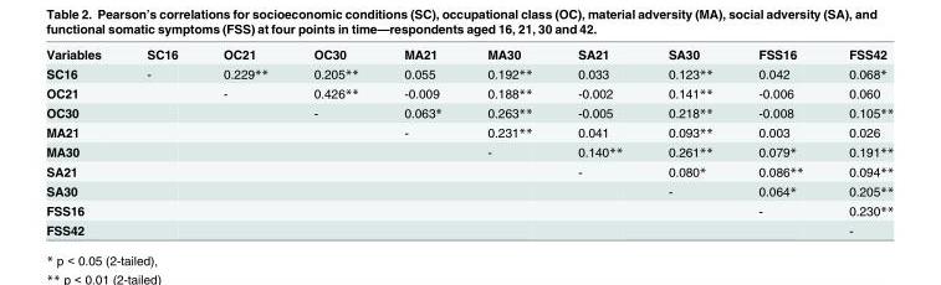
<table><tbody><tr><td>Variables</td><td>SC16</td><td>OC21</td><td>OC30</td><td>MA21</td><td>MA30</td><td>SA21</td><td>SA30</td><td>FSS16</td><td>FSS42</td></tr><tr><td>SC16</td><td>-</td><td>0.229**</td><td>0.205**</td><td>0.055</td><td>0.192**</td><td>0.033</td><td>0.123**</td><td>0.042</td><td>0.068*</td></tr><tr><td>OC21</td><td></td><td>-</td><td>0.426**</td><td>-0.009</td><td>0.188**</td><td>-0.002</td><td>0.141**</td><td>-0.006</td><td>0.060</td></tr><tr><td>OC30</td><td></td><td></td><td>-</td><td>0.063*</td><td>0.263**</td><td>-0.005</td><td>0.218**</td><td>-0.008</td><td>0.105**</td></tr><tr><td>MA21</td><td></td><td></td><td></td><td>-</td><td>0.231**</td><td>0.041</td><td>0.093**</td><td>0.003</td><td>0.026</td></tr><tr><td>MA30</td><td></td><td></td><td></td><td></td><td>-</td><td>0.140**</td><td>0.261**</td><td>0.079*</td><td>0.191**</td></tr><tr><td>SA21</td><td></td><td></td><td></td><td></td><td></td><td>-</td><td>0.080*</td><td>0.086**</td><td>0.094**</td></tr><tr><td>SA30</td><td></td><td></td><td></td><td></td><td></td><td></td><td>-</td><td>0.064*</td><td>0.205**</td></tr><tr><td>FSS16</td><td></td><td></td><td></td><td></td><td></td><td></td><td></td><td>-</td><td>0.230**</td></tr><tr><td>FSS42</td><td></td><td></td><td></td><td></td><td></td><td></td><td></td><td></td><td>-</td></tr></tbody></table>